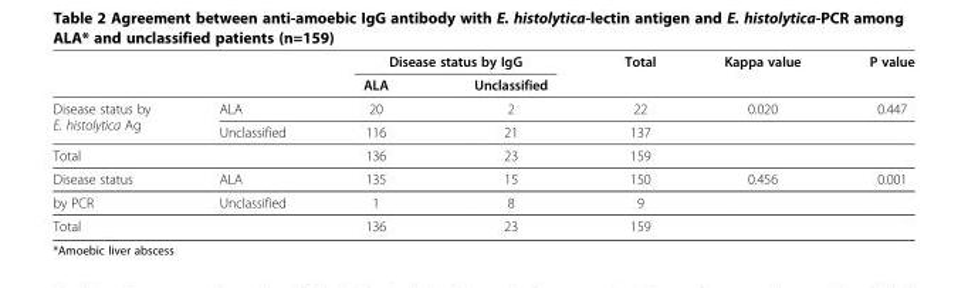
<table><thead><tr><td rowspan="2"></td><td rowspan="2"></td><td colspan="2">Disease status by IgG</td><td rowspan="2">Total</td><td rowspan="2">Kappa value</td><td rowspan="2">P value</td></tr><tr><td>ALA</td><td>Unclassified</td></tr></thead><tbody><tr><td rowspan="2">Disease status by E. histolytica Ag</td><td>ALA</td><td>20</td><td>2</td><td>22</td><td>0.020</td><td>0.447</td></tr><tr><td>Unclassified</td><td>116</td><td>21</td><td>137</td><td></td><td></td></tr><tr><td colspan="2">Total</td><td>136</td><td>23</td><td>159</td><td></td><td></td></tr><tr><td>Disease status</td><td>ALA</td><td>135</td><td>15</td><td>150</td><td>0.456</td><td>0.001</td></tr><tr><td>by PCR</td><td>Unclassified</td><td>1</td><td>8</td><td>9</td><td></td><td></td></tr><tr><td>Total</td><td></td><td>136</td><td>23</td><td>159</td><td></td><td></td></tr></tbody></table>